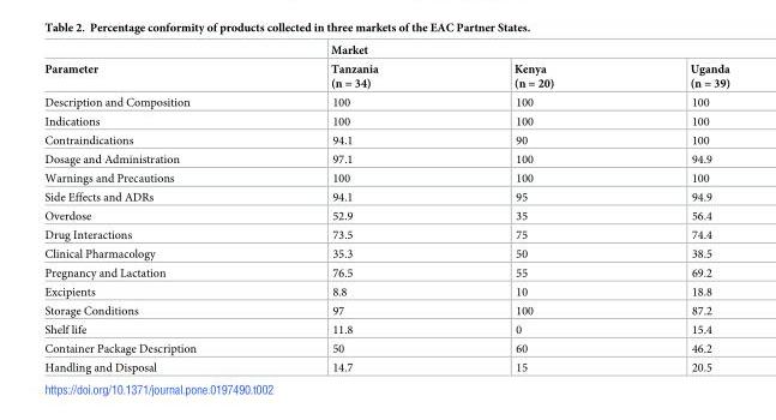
<table><thead><tr><td rowspan="2">Parameter</td><td colspan="3">Market</td></tr><tr><td>Tanzania (n = 34)</td><td>Kenya (n = 20)</td><td>Uganda (n = 39)</td></tr></thead><tbody><tr><td>Description and Composition</td><td>100</td><td>100</td><td>100</td></tr><tr><td>Indications</td><td>100</td><td>100</td><td>100</td></tr><tr><td>Contraindications</td><td>94.1</td><td>90</td><td>100</td></tr><tr><td>Dosage and Administration</td><td>97.1</td><td>100</td><td>94.9</td></tr><tr><td>Warnings and Precautions</td><td>100</td><td>100</td><td>100</td></tr><tr><td>Side Effects and ADRs</td><td>94.1</td><td>95</td><td>94.9</td></tr><tr><td>Overdose</td><td>52.9</td><td>35</td><td>56.4</td></tr><tr><td>Drug Interactions</td><td>73.5</td><td>75</td><td>74.4</td></tr><tr><td>Clinical Pharmacology</td><td>35.3</td><td>50</td><td>38.5</td></tr><tr><td>Pregnancy and Lactation</td><td>76.5</td><td>55</td><td>69.2</td></tr><tr><td>Excipients</td><td>8.8</td><td>10</td><td>18.8</td></tr><tr><td>Storage Conditions</td><td>97</td><td>100</td><td>87.2</td></tr><tr><td>Shelf life</td><td>11.8</td><td>0</td><td>15.4</td></tr><tr><td>Container Package Description</td><td>50</td><td>60</td><td>46.2</td></tr><tr><td>Handling and Disposal</td><td>14.7</td><td>15</td><td>20.5</td></tr></tbody></table>